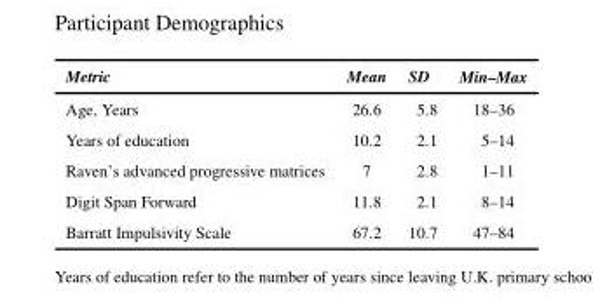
<table><thead><tr><td>Metric</td><td>Mean</td><td>SD</td><td>Min–Max</td></tr></thead><tbody><tr><td>Age, Years</td><td>26.6</td><td>5.8</td><td>18–36</td></tr><tr><td>Years of education</td><td>10.2</td><td>2.1</td><td>5–14</td></tr><tr><td>Raven’s advanced progressive matrices</td><td>7</td><td>2.8</td><td>1–11</td></tr><tr><td>Digit Span Forward</td><td>11.8</td><td>2.1</td><td>8–14</td></tr><tr><td>Barratt Impulsivity Scale</td><td>67.2</td><td>10.7</td><td>47–84</td></tr></tbody></table>